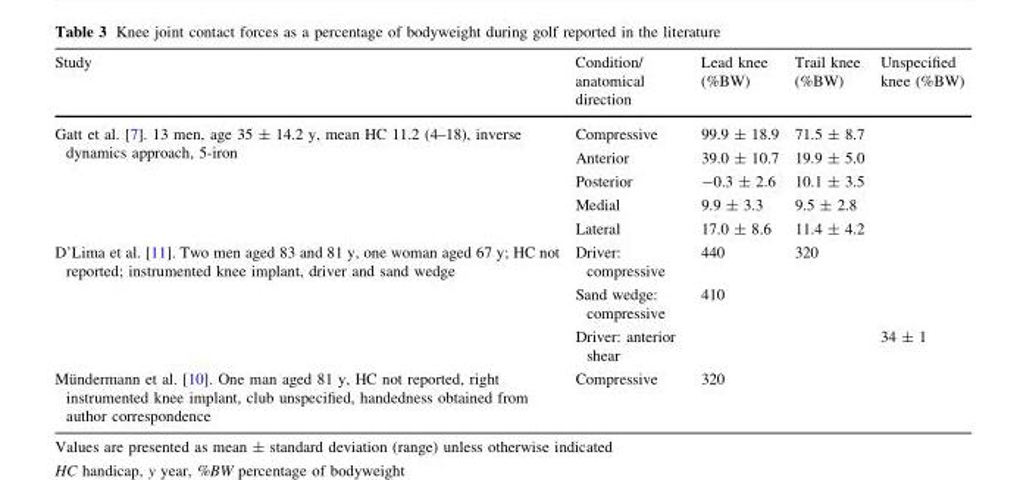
<table><thead><tr><td>Study</td><td>Condition/ anatomical direction</td><td>Lead knee (%BW)</td><td>Trail knee (%BW)</td><td>Unspecified knee (%BW)</td></tr></thead><tbody><tr><td rowspan="5">Gatt et al. [7]. 13 men, age 35 ± 14.2 y, mean HC 11.2 (4–18), inverse dynamics approach, 5-iron</td><td>Compressive</td><td>99.9 ± 18.9</td><td>71.5 ± 8.7</td><td></td></tr><tr><td>Anterior</td><td>39.0 ± 10.7</td><td>19.9 ± 5.0</td><td></td></tr><tr><td>Posterior</td><td>-0.3 ± 2.6</td><td>10.1 ± 3.5</td><td></td></tr><tr><td>Medial</td><td>9.9 ± 3.3</td><td>9.5 ± 2.8</td><td></td></tr><tr><td>Lateral</td><td>17.0 ± 8.6</td><td>11.4 ± 4.2</td><td></td></tr><tr><td rowspan="3">D’Lima et al. [11]. Two men aged 83 and 81 y, one woman aged 67 y; HC not reported; instrumented knee implant, driver and sand wedge</td><td>Driver: compressive</td><td>440</td><td>320</td><td></td></tr><tr><td>Sand wedge: compressive</td><td>410</td><td></td><td></td></tr><tr><td>Driver: anterior shear</td><td></td><td></td><td>34 ± 1</td></tr><tr><td>Mu¨ndermann et al. [10]. One man aged 81 y, HC not reported, right instrumented knee implant, club unspecified, handedness obtained from author correspondence</td><td>Compressive</td><td>320</td><td></td><td></td></tr></tbody></table>